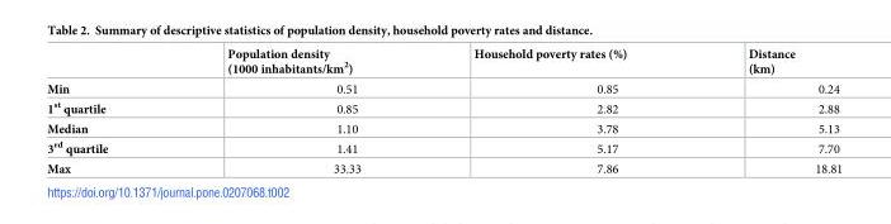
<table><thead><tr><td></td><td>Population density (1000 inhabitants/km<sup>2</sup>)</td><td>Household poverty rates (%)</td><td>Distance (km)</td></tr></thead><tbody><tr><td>Min</td><td>0.51</td><td>0.85</td><td>0.24</td></tr><tr><td>1<sup>st</sup> quartile</td><td>0.85</td><td>2.82</td><td>2.88</td></tr><tr><td>Median</td><td>1.10</td><td>3.78</td><td>5.13</td></tr><tr><td>3<sup>rd</sup> quartile</td><td>1.41</td><td>5.17</td><td>7.70</td></tr><tr><td>Max</td><td>33.33</td><td>7.86</td><td>18.81</td></tr></tbody></table>